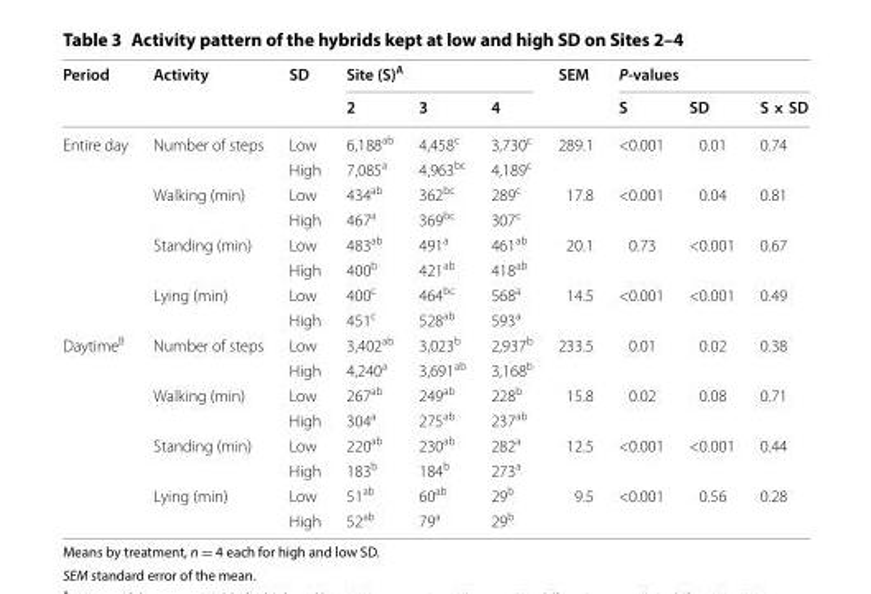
<table><thead><tr><td rowspan="2">Period</td><td rowspan="2">Activity</td><td rowspan="2">SD</td><td colspan="3">Site (S)<sup>A</sup></td><td rowspan="2">SEM</td><td colspan="3">P-values</td></tr><tr><td>2</td><td>3</td><td>4</td><td>S</td><td>SD</td><td>S × SD</td></tr></thead><tbody><tr><td rowspan="8">Entire day</td><td rowspan="2">Number of steps</td><td>Low</td><td>6,188<sup>ab</sup></td><td>4,458<sup>c</sup></td><td>3,730<sup>c</sup></td><td>289.1</td><td>&lt;0.001</td><td>0.01</td><td>0.74</td></tr><tr><td>High</td><td>7,085<sup>a</sup></td><td>4,963<sup>bc</sup></td><td>4,189<sup>c</sup></td><td></td><td></td><td></td><td></td></tr><tr><td rowspan="2">Walking (min)</td><td>Low</td><td>434<sup>ab</sup></td><td>362<sup>bc</sup></td><td>289<sup>c</sup></td><td>17.8</td><td>&lt;0.001</td><td>0.04</td><td>0.81</td></tr><tr><td>High</td><td>467<sup>a</sup></td><td>369<sup>bc</sup></td><td>307<sup>c</sup></td><td></td><td></td><td></td><td></td></tr><tr><td rowspan="2">Standing (min)</td><td>Low</td><td>483<sup>ab</sup></td><td>491<sup>a</sup></td><td>461<sup>ab</sup></td><td>20.1</td><td>0.73</td><td>&lt;0.001</td><td>0.67</td></tr><tr><td>High</td><td>400<sup>b</sup></td><td>421<sup>ab</sup></td><td>418<sup>ab</sup></td><td></td><td></td><td></td><td></td></tr><tr><td rowspan="2">Lying (min)</td><td>Low</td><td>400<sup>c</sup></td><td>464<sup>bc</sup></td><td>568<sup>a</sup></td><td>14.5</td><td>&lt;0.001</td><td>&lt;0.001</td><td>0.49</td></tr><tr><td>High</td><td>451<sup>c</sup></td><td>528<sup>ab</sup></td><td>593<sup>a</sup></td><td></td><td></td><td></td><td></td></tr><tr><td rowspan="8">Daytime<sup>B</sup></td><td rowspan="2">Number of steps</td><td>Low</td><td>3,402<sup>ab</sup></td><td>3,023<sup>b</sup></td><td>2,937<sup>b</sup></td><td>233.5</td><td>0.01</td><td>0.02</td><td>0.38</td></tr><tr><td>High</td><td>4,240<sup>a</sup></td><td>3,691<sup>ab</sup></td><td>3,168<sup>b</sup></td><td></td><td></td><td></td><td></td></tr><tr><td rowspan="2">Walking (min)</td><td>Low</td><td>267<sup>ab</sup></td><td>249<sup>ab</sup></td><td>228<sup>b</sup></td><td>15.8</td><td>0.02</td><td>0.08</td><td>0.71</td></tr><tr><td>High</td><td>304<sup>a</sup></td><td>275<sup>ab</sup></td><td>237<sup>ab</sup></td><td></td><td></td><td></td><td></td></tr><tr><td rowspan="2">Standing (min)</td><td>Low</td><td>220<sup>ab</sup></td><td>230<sup>ab</sup></td><td>282<sup>a</sup></td><td>12.5</td><td>&lt;0.001</td><td>&lt;0.001</td><td>0.44</td></tr><tr><td>High</td><td>183<sup>b</sup></td><td>184<sup>b</sup></td><td>273<sup>a</sup></td><td></td><td></td><td></td><td></td></tr><tr><td rowspan="2">Lying (min)</td><td>Low</td><td>51<sup>ab</sup></td><td>60<sup>ab</sup></td><td>29<sup>b</sup></td><td>9.5</td><td>&lt;0.001</td><td>0.56</td><td>0.28</td></tr><tr><td>High</td><td>52<sup>ab</sup></td><td>79<sup>a</sup></td><td>29<sup>b</sup></td><td></td><td></td><td></td><td></td></tr></tbody></table>